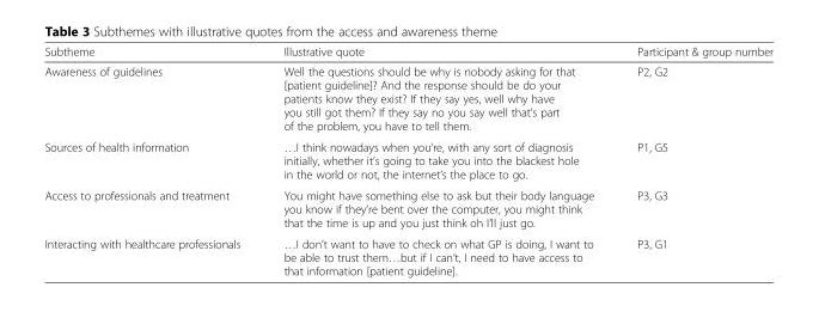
<table><thead><tr><td>Subtheme</td><td>Illustrative quote</td><td>Participant &amp; group number</td></tr></thead><tbody><tr><td>Awareness of guidelines</td><td>Well the questions should be why is nobody asking for that [patient guideline]? And the response should be do your patients know they exist? If they say yes, well why have you still got them? If they say no you say well that’s part of the problem, you have to tell them.</td><td>P2, G2</td></tr><tr><td>Sources of health information</td><td>…I think nowadays when you’re, with any sort of diagnosis initially, whether it’s going to take you into the blackest hole in the world or not, the internet’s the place to go.</td><td>P1, G5</td></tr><tr><td>Access to professionals and treatment</td><td>You might have something else to ask but their body language you know if they’re bent over the computer, you might think that the time is up and you just think oh I’ll just go.</td><td>P3, G3</td></tr><tr><td>Interacting with healthcare professionals</td><td>…I don’t want to have to check on what GP is doing, I want to be able to trust them…but if I can’t, I need to have access to that information [patient guideline].</td><td>P3, G1</td></tr></tbody></table>